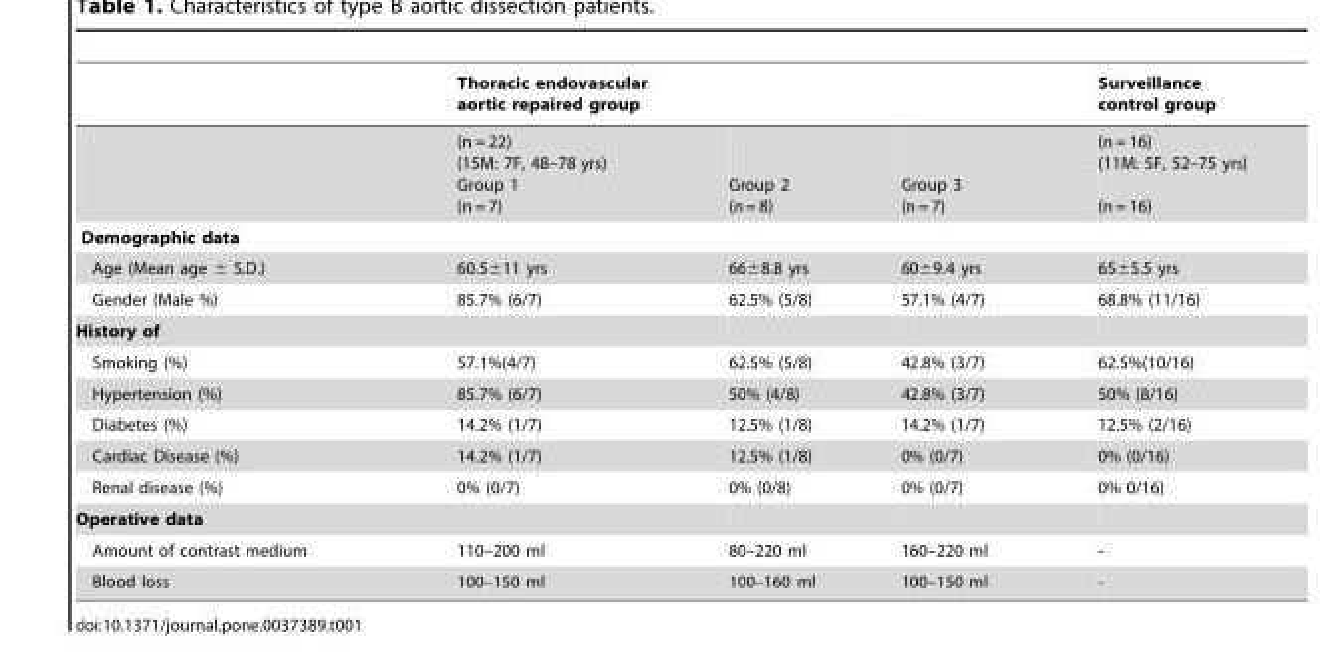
<table><thead><tr><td rowspan="2"></td><td colspan="2">Thoracic endovascular aortic repaired group</td><td rowspan="2">Group 3 (n = 7)</td><td rowspan="2">Surveillance control group (n = 16) (11M: 5F, 52–75 yrs) (n = 16)</td></tr><tr><td>(n = 22) (15M: 7F, 48–78 yrs) Group 1 (n = 7)</td><td>Group 2 (n = 8)</td></tr></thead><tbody><tr><td colspan="5">Demographic data</td></tr><tr><td>Age (Mean age ± S.D.)</td><td>60.5±11 yrs</td><td>66±8.8 yrs</td><td>60±9.4 yrs</td><td>65±5.5 yrs</td></tr><tr><td>Gender (Male %)</td><td>85.7% (6/7)</td><td>62.5% (5/8)</td><td>57.1% (4/7)</td><td>68.8% (11/16)</td></tr><tr><td colspan="5">History of</td></tr><tr><td>Smoking (%)</td><td>57.1%(4/7)</td><td>62.5% (5/8)</td><td>42.8% (3/7)</td><td>62.5%(10/16)</td></tr><tr><td>Hypertension (%)</td><td>85.7% (6/7)</td><td>50% (4/8)</td><td>42.8% (3/7)</td><td>50% (8/16)</td></tr><tr><td>Diabetes (%)</td><td>14.2% (1/7)</td><td>12.5% (1/8)</td><td>14.2% (1/7)</td><td>12.5% (2/16)</td></tr><tr><td>Cardiac Disease (%)</td><td>14.2% (1/7)</td><td>12.5% (1/8)</td><td>0% (0/7)</td><td>0% (0/16)</td></tr><tr><td>Renal disease (%)</td><td>0% (0/7)</td><td>0% (0/8)</td><td>0% (0/7)</td><td>0% 0/16)</td></tr><tr><td colspan="5">Operative data</td></tr><tr><td>Amount of contrast medium</td><td>110–200 ml</td><td>80–220 ml</td><td>160–220 ml</td><td>-</td></tr><tr><td>Blood loss</td><td>100–150 ml</td><td>100–160 ml</td><td>100–150 ml</td><td>-</td></tr></tbody></table>